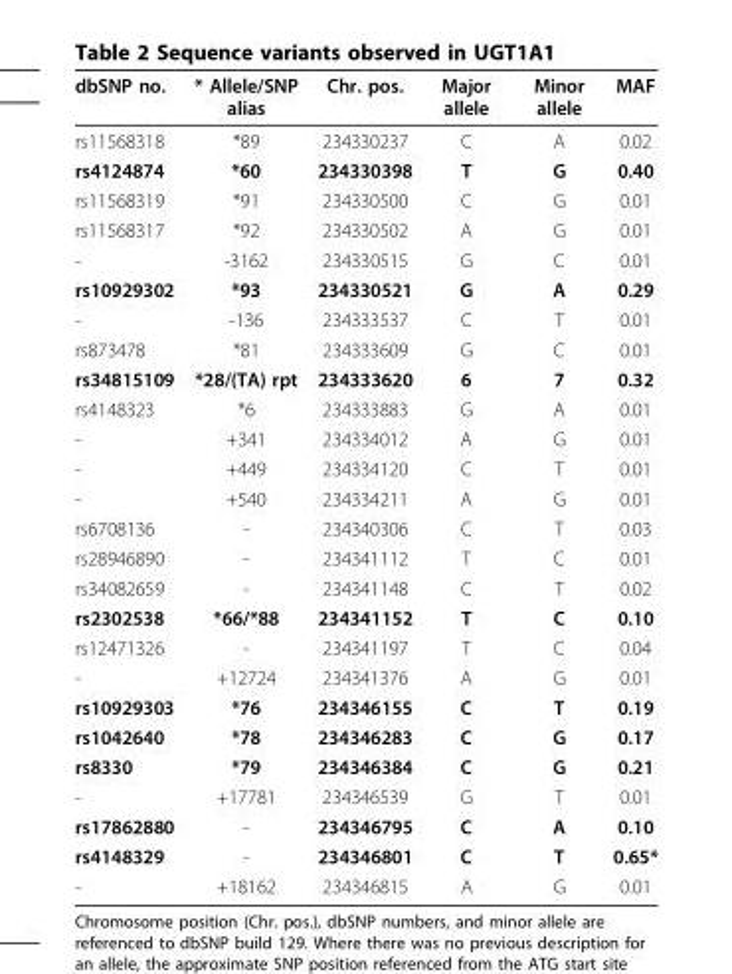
<table><thead><tr><td>dbSNP no.</td><td>* Allele/SNP alias</td><td>Chr. pos.</td><td>Major allele</td><td>Minor allele</td><td>MAF</td></tr></thead><tbody><tr><td>rs11568318</td><td>*89</td><td>234330237</td><td>C</td><td>A</td><td>0.02</td></tr><tr><td>rs4124874</td><td>*60</td><td>234330398</td><td>T</td><td>G</td><td>0.40</td></tr><tr><td>rs11568319</td><td>*91</td><td>234330500</td><td>C</td><td>G</td><td>0.01</td></tr><tr><td>rs11568317</td><td>*92</td><td>234330502</td><td>A</td><td>G</td><td>0.01</td></tr><tr><td>-</td><td>-3162</td><td>234330515</td><td>G</td><td>C</td><td>0.01</td></tr><tr><td>rs10929302</td><td>*93</td><td>234330521</td><td>G</td><td>A</td><td>0.29</td></tr><tr><td>-</td><td>-136</td><td>234333537</td><td>C</td><td>T</td><td>0.01</td></tr><tr><td>rs873478</td><td>*81</td><td>234333609</td><td>G</td><td>C</td><td>0.01</td></tr><tr><td>rs34815109</td><td>*28/(TA) rpt</td><td>234333620</td><td>6</td><td>7</td><td>0.32</td></tr><tr><td>rs4148323</td><td>*6</td><td>234333883</td><td>G</td><td>A</td><td>0.01</td></tr><tr><td>-</td><td>+341</td><td>234334012</td><td>A</td><td>G</td><td>0.01</td></tr><tr><td>-</td><td>+449</td><td>234334120</td><td>C</td><td>T</td><td>0.01</td></tr><tr><td>-</td><td>+540</td><td>234334211</td><td>A</td><td>G</td><td>0.01</td></tr><tr><td>rs6708136</td><td>-</td><td>234340306</td><td>C</td><td>T</td><td>0.03</td></tr><tr><td>rs28946890</td><td>-</td><td>234341112</td><td>T</td><td>C</td><td>0.01</td></tr><tr><td>rs34082659</td><td>-</td><td>234341148</td><td>C</td><td>T</td><td>0.02</td></tr><tr><td>rs2302538</td><td>*66/*88</td><td>234341152</td><td>T</td><td>C</td><td>0.10</td></tr><tr><td>rs12471326</td><td>-</td><td>234341197</td><td>T</td><td>C</td><td>0.04</td></tr><tr><td>-</td><td>+12724</td><td>234341376</td><td>A</td><td>G</td><td>0.01</td></tr><tr><td>rs10929303</td><td>*76</td><td>234346155</td><td>C</td><td>T</td><td>0.19</td></tr><tr><td>rs1042640</td><td>*78</td><td>234346283</td><td>C</td><td>G</td><td>0.17</td></tr><tr><td>rs8330</td><td>*79</td><td>234346384</td><td>C</td><td>G</td><td>0.21</td></tr><tr><td>-</td><td>+17781</td><td>234346539</td><td>G</td><td>T</td><td>0.01</td></tr><tr><td>rs17862880</td><td>-</td><td>234346795</td><td>C</td><td>A</td><td>0.10</td></tr><tr><td>rs4148329</td><td>-</td><td>234346801</td><td>C</td><td>T</td><td>0.65*</td></tr><tr><td>-</td><td>+18162</td><td>234346815</td><td>A</td><td>G</td><td>0.01</td></tr></tbody></table>